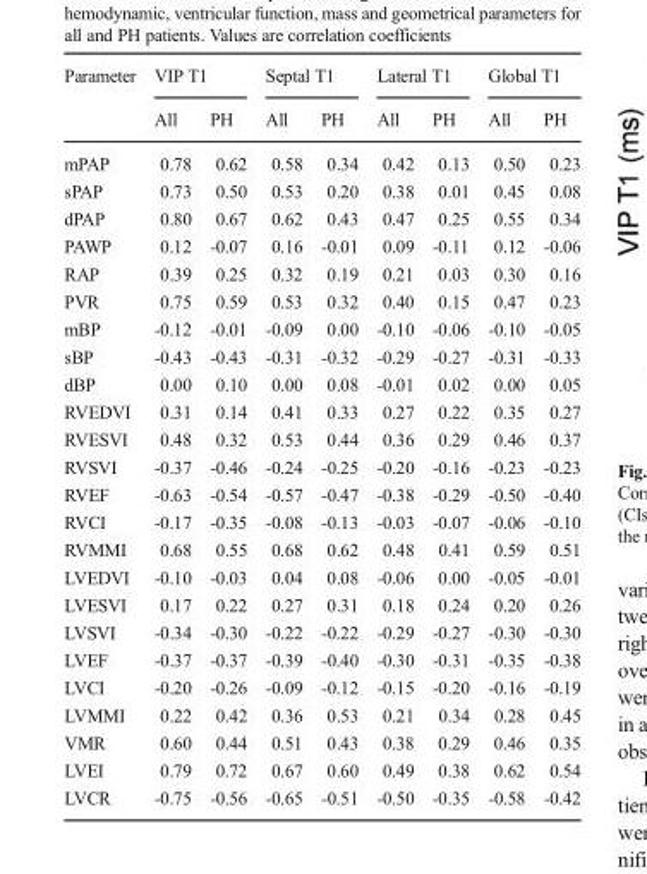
<table><thead><tr><td rowspan="2">Parameter</td><td colspan="2">VIP T1</td><td colspan="2">Septal T1</td><td colspan="2">Lateral T1</td><td colspan="2">Global T1</td></tr><tr><td>All</td><td>PH</td><td>All</td><td>PH</td><td>All</td><td>PH</td><td>All</td><td>PH</td></tr></thead><tbody><tr><td>mPAP</td><td>0.78</td><td>0.62</td><td>0.58</td><td>0.34</td><td>0.42</td><td>0.13</td><td>0.50</td><td>0.23</td></tr><tr><td>sPAP</td><td>0.73</td><td>0.50</td><td>0.53</td><td>0.20</td><td>0.38</td><td>0.01</td><td>0.45</td><td>0.08</td></tr><tr><td>dPAP</td><td>0.80</td><td>0.67</td><td>0.62</td><td>0.43</td><td>0.47</td><td>0.25</td><td>0.55</td><td>0.34</td></tr><tr><td>PAWP</td><td>0.12</td><td>-0.07</td><td>0.16</td><td>-0.01</td><td>0.09</td><td>-0.11</td><td>0.12</td><td>-0.06</td></tr><tr><td>RAP</td><td>0.39</td><td>0.25</td><td>0.32</td><td>0.19</td><td>0.21</td><td>0.03</td><td>0.30</td><td>0.16</td></tr><tr><td>PVR</td><td>0.75</td><td>0.59</td><td>0.53</td><td>0.32</td><td>0.40</td><td>0.15</td><td>0.47</td><td>0.23</td></tr><tr><td>mBP</td><td>-0.12</td><td>-0.01</td><td>-0.09</td><td>0.00</td><td>-0.10</td><td>-0.06</td><td>-0.10</td><td>-0.05</td></tr><tr><td>sBP</td><td>-0.43</td><td>-0.43</td><td>-0.31</td><td>-0.32</td><td>-0.29</td><td>-0.27</td><td>-0.31</td><td>-0.33</td></tr><tr><td>dBP</td><td>0.00</td><td>0.10</td><td>0.00</td><td>0.08</td><td>-0.01</td><td>0.02</td><td>0.00</td><td>0.05</td></tr><tr><td>RVEDVI</td><td>0.31</td><td>0.14</td><td>0.41</td><td>0.33</td><td>0.27</td><td>0.22</td><td>0.35</td><td>0.27</td></tr><tr><td>RVESVI</td><td>0.48</td><td>0.32</td><td>0.53</td><td>0.44</td><td>0.36</td><td>0.29</td><td>0.46</td><td>0.37</td></tr><tr><td>RVSVI</td><td>-0.37</td><td>-0.46</td><td>-0.24</td><td>-0.25</td><td>-0.20</td><td>-0.16</td><td>-0.23</td><td>-0.23</td></tr><tr><td>RVEF</td><td>-0.63</td><td>-0.54</td><td>-0.57</td><td>-0.47</td><td>-0.38</td><td>-0.29</td><td>-0.50</td><td>-0.40</td></tr><tr><td>RVCI</td><td>-0.17</td><td>-0.35</td><td>-0.08</td><td>-0.13</td><td>-0.03</td><td>-0.07</td><td>-0.06</td><td>-0.10</td></tr><tr><td>RVMMI</td><td>0.68</td><td>0.55</td><td>0.68</td><td>0.62</td><td>0.48</td><td>0.41</td><td>0.59</td><td>0.51</td></tr><tr><td>LVEDVI</td><td>-0.10</td><td>-0.03</td><td>0.04</td><td>0.08</td><td>-0.06</td><td>0.00</td><td>-0.05</td><td>-0.01</td></tr><tr><td>LVESVI</td><td>0.17</td><td>0.22</td><td>0.27</td><td>0.31</td><td>0.18</td><td>0.24</td><td>0.20</td><td>0.26</td></tr><tr><td>LVSVI</td><td>-0.34</td><td>-0.30</td><td>-0.22</td><td>-0.22</td><td>-0.29</td><td>-0.27</td><td>-0.30</td><td>-0.30</td></tr><tr><td>LVEF</td><td>-0.37</td><td>-0.37</td><td>-0.39</td><td>-0.40</td><td>-0.30</td><td>-0.31</td><td>-0.35</td><td>-0.38</td></tr><tr><td>LVCI</td><td>-0.20</td><td>-0.26</td><td>-0.09</td><td>-0.12</td><td>-0.15</td><td>-0.20</td><td>-0.16</td><td>-0.19</td></tr><tr><td>LVMMI</td><td>0.22</td><td>0.42</td><td>0.36</td><td>0.53</td><td>0.21</td><td>0.34</td><td>0.28</td><td>0.45</td></tr><tr><td>VMR</td><td>0.60</td><td>0.44</td><td>0.51</td><td>0.43</td><td>0.38</td><td>0.29</td><td>0.46</td><td>0.35</td></tr><tr><td>LVEI</td><td>0.79</td><td>0.72</td><td>0.67</td><td>0.60</td><td>0.49</td><td>0.38</td><td>0.62</td><td>0.54</td></tr><tr><td>LVCR</td><td>-0.75</td><td>-0.56</td><td>-0.65</td><td>-0.51</td><td>-0.50</td><td>-0.35</td><td>-0.58</td><td>-0.42</td></tr></tbody></table>